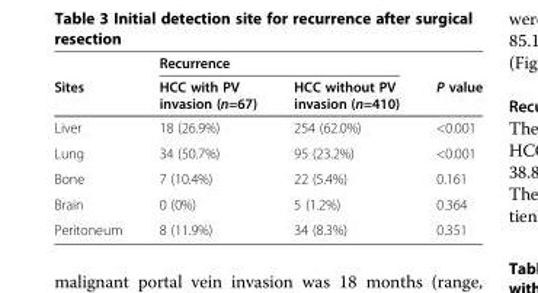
<table><thead><tr><td rowspan="2">Sites</td><td colspan="2">Recurrence</td><td rowspan="2">P value</td></tr><tr><td>HCC with PV invasion (n=67)</td><td>HCC without PV invasion (n=410)</td></tr></thead><tbody><tr><td>Liver</td><td>18 (26.9%)</td><td>254 (62.0%)</td><td>&lt;0.001</td></tr><tr><td>Lung</td><td>34 (50.7%)</td><td>95 (23.2%)</td><td>&lt;0.001</td></tr><tr><td>Bone</td><td>7 (10.4%)</td><td>22 (5.4%)</td><td>0.161</td></tr><tr><td>Brain</td><td>0 (0%)</td><td>5 (1.2%)</td><td>0.364</td></tr><tr><td>Peritoneum</td><td>8 (11.9%)</td><td>34 (8.3%)</td><td>0.351</td></tr></tbody></table>